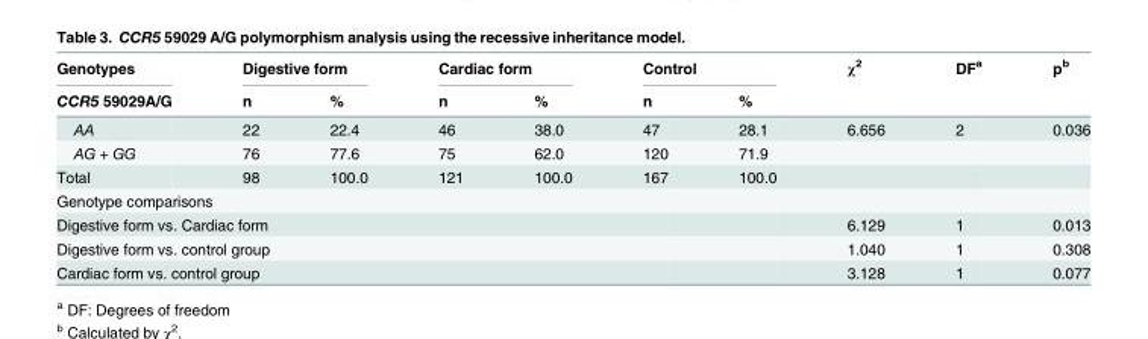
<table><thead><tr><td rowspan="2">Genotypes CCR5 59029A/G</td><td colspan="2">Digestive form</td><td colspan="2">Cardiac form</td><td colspan="2">Control</td><td rowspan="2">χ<sup>2</sup></td><td rowspan="2">DF<sup>a</sup></td><td rowspan="2">p<sup>b</sup></td></tr><tr><td>n</td><td>%</td><td>n</td><td>%</td><td>n</td><td>%</td></tr></thead><tbody><tr><td>AA</td><td>22</td><td>22.4</td><td>46</td><td>38.0</td><td>47</td><td>28.1</td><td>6.656</td><td>2</td><td>0.036</td></tr><tr><td>AG + GG</td><td>76</td><td>77.6</td><td>75</td><td>62.0</td><td>120</td><td>71.9</td><td></td><td></td><td></td></tr><tr><td>Total</td><td>98</td><td>100.0</td><td>121</td><td>100.0</td><td>167</td><td>100.0</td><td></td><td></td><td></td></tr><tr><td colspan="10">Genotype comparisons</td></tr><tr><td colspan="5">Digestive form vs. Cardiac form</td><td></td><td></td><td>6.129</td><td>1</td><td>0.013</td></tr><tr><td colspan="5">Digestive form vs. control group</td><td></td><td></td><td>1.040</td><td>1</td><td>0.308</td></tr><tr><td colspan="5">Cardiac form vs. control group</td><td></td><td></td><td>3.128</td><td>1</td><td>0.077</td></tr></tbody></table>